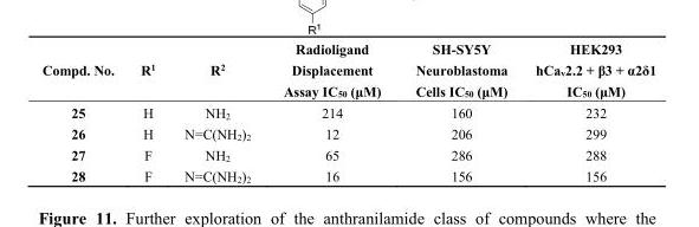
<table><thead><tr><td>Compd. No.</td><td>R<sup>1</sup></td><td>R<sup>2</sup></td><td>Radioligand Displacement Assay IC<sub>50</sub> (μM)</td><td>SH-SY5Y Neuroblastoma Cells IC<sub>50</sub> (μM)</td><td>HEK293 hCa<sub>v</sub>2.2 + β3 + α2δ1 IC<sub>50</sub> (μM)</td></tr></thead><tbody><tr><td>25</td><td>H</td><td>NH<sub>2</sub></td><td>214</td><td>160</td><td>232</td></tr><tr><td>26</td><td>H</td><td>N=C(NH<sub>2</sub>)<sub>2</sub></td><td>12</td><td>206</td><td>299</td></tr><tr><td>27</td><td>F</td><td>NH<sub>2</sub></td><td>65</td><td>286</td><td>288</td></tr><tr><td>28</td><td>F</td><td>N=C(NH<sub>2</sub>)<sub>2</sub></td><td>16</td><td>156</td><td>156</td></tr></tbody></table>